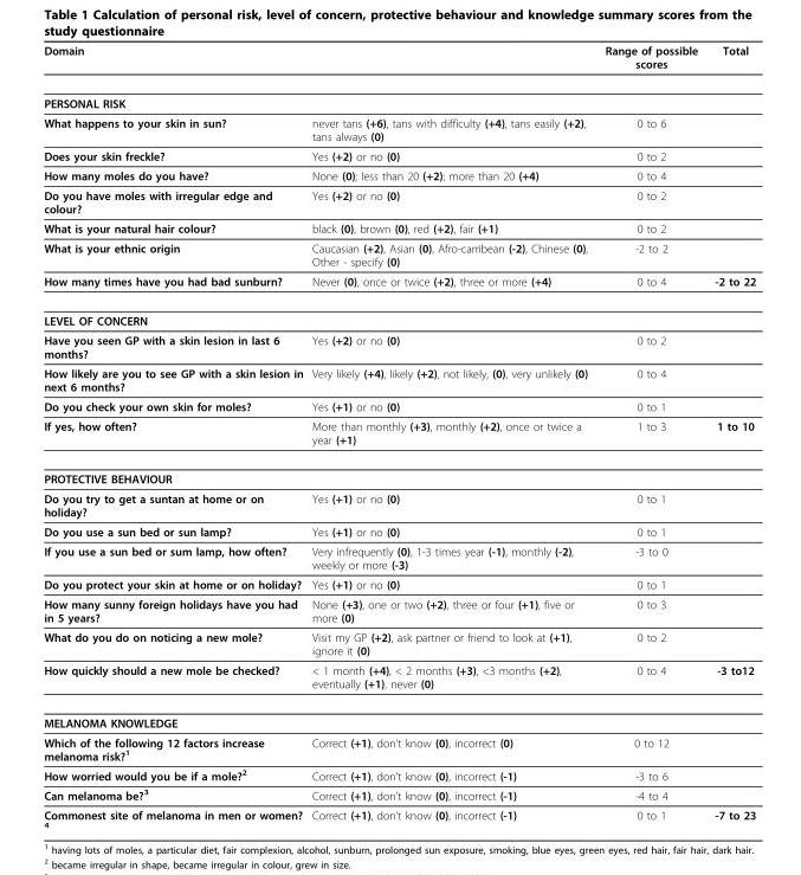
<table><thead><tr><td>Domain</td><td></td><td>Range of possible scores</td><td>Total</td></tr></thead><tbody><tr><td colspan="4">PERSONAL RISK</td></tr><tr><td>What happens to your skin in sun?</td><td>never tans (+6), tans with difficulty (+4), tans easily (+2), tans always (0)</td><td>0 to 6</td><td></td></tr><tr><td>Does your skin freckle?</td><td>Yes (+2) or no (0)</td><td>0 to 2</td><td></td></tr><tr><td>How many moles do you have?</td><td>None (0); less than 20 (+2); more than 20 (+4)</td><td>0 to 4</td><td></td></tr><tr><td>Do you have moles with irregular edge and colour?</td><td>Yes (+2) or no (0)</td><td>0 to 2</td><td></td></tr><tr><td>What is your natural hair colour?</td><td>black (0), brown (0), red (+2), fair (+1)</td><td>0 to 2</td><td></td></tr><tr><td>What is your ethnic origin</td><td>Caucasian (+2), Asian (0), Afro-carribean (-2), Chinese (0), Other - specify (0)</td><td>-2 to 2</td><td></td></tr><tr><td>How many times have you had bad sunburn?</td><td>Never (0), once or twice (+2), three or more (+4)</td><td>0 to 4</td><td>-2 to 22</td></tr><tr><td colspan="4">LEVEL OF CONCERN</td></tr><tr><td>Have you seen GP with a skin lesion in last 6 months?</td><td>Yes (+2) or no (0)</td><td>0 to 2</td><td></td></tr><tr><td>How likely are you to see GP with a skin lesion in next 6 months?</td><td>Very likely (+4), likely (+2), not likely, (0), very unlikely (0)</td><td>0 to 4</td><td></td></tr><tr><td>Do you check your own skin for moles?</td><td>Yes (+1) or no (0)</td><td>0 to 1</td><td></td></tr><tr><td>If yes, how often?</td><td>More than monthly (+3), monthly (+2), once or twice a year (+1)</td><td>1 to 3</td><td>1 to 10</td></tr><tr><td colspan="4">PROTECTIVE BEHAVIOUR</td></tr><tr><td>Do you try to get a suntan at home or on holiday?</td><td>Yes (+1) or no (0)</td><td>0 to 1</td><td></td></tr><tr><td>Do you use a sun bed or sun lamp?</td><td>Yes (+1) or no (0)</td><td>0 to 1</td><td></td></tr><tr><td>If you use a sun bed or sum lamp, how often?</td><td>Very infrequently (0), 1-3 times year (-1), monthly (-2), weekly or more (-3)</td><td>-3 to 0</td><td></td></tr><tr><td>Do you protect your skin at home or on holiday?</td><td>Yes (+1) or no (0)</td><td>0 to 1</td><td></td></tr><tr><td>How many sunny foreign holidays have you had in 5 years?</td><td>None (+3), one or two (+2), three or four (+1), five or more (0)</td><td>0 to 3</td><td></td></tr><tr><td>What do you do on noticing a new mole?</td><td>Visit my GP (+2), ask partner or friend to look at (+1), ignore it (0)</td><td>0 to 2</td><td></td></tr><tr><td>How quickly should a new mole be checked?</td><td>&lt; 1 month (+4), &lt; 2 months (+3), &lt;3 months (+2), eventually (+1), never (0)</td><td>0 to 4</td><td>-3 to12</td></tr><tr><td colspan="4">MELANOMA KNOWLEDGE</td></tr><tr><td>Which of the following 12 factors increase melanoma risk?1</td><td>Correct (+1), don’t know (0), incorrect (0)</td><td>0 to 12</td><td></td></tr><tr><td>How worried would you be if a mole?2</td><td>Correct (+1), don’t know (0), incorrect (-1)</td><td>-3 to 6</td><td></td></tr><tr><td>Can melanoma be?3</td><td>Correct (+1), don’t know (0), incorrect (-1)</td><td>-4 to 4</td><td></td></tr><tr><td>Commonest site of melanoma in men or women? 4</td><td>Correct (+1), don’t know (0), incorrect (-1)</td><td>0 to 1</td><td>-7 to 23</td></tr></tbody></table>